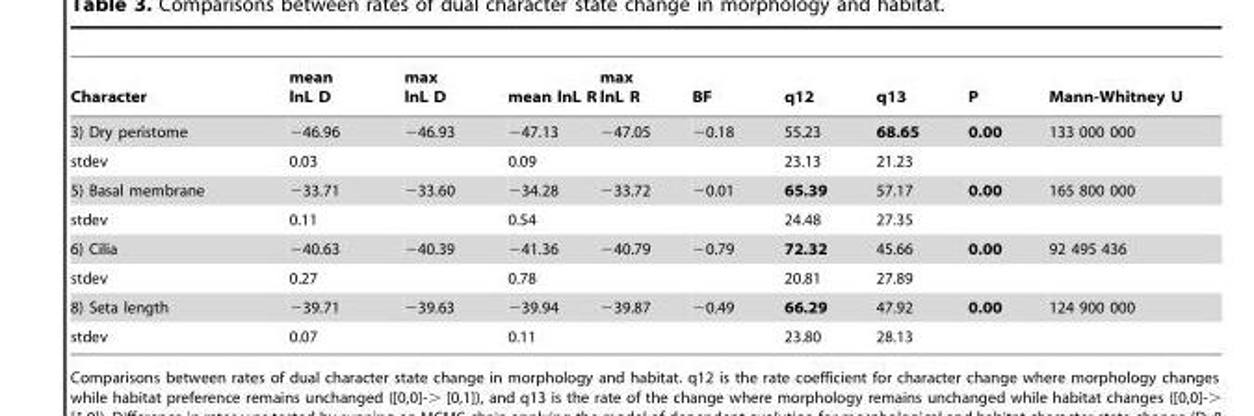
<table><thead><tr><td>Character</td><td>mean lnL D</td><td>max lnL D</td><td>mean lnL R</td><td>max lnL R</td><td>BF</td><td>q12</td><td>q13</td><td>P</td><td>Mann-Whitney U</td></tr></thead><tbody><tr><td>3) Dry peristome</td><td>−46.96</td><td>−46.93</td><td>−47.13</td><td>−47.05</td><td>−0.18</td><td>55.23</td><td>68.65</td><td>0.00</td><td>133 000 000</td></tr><tr><td>stdev</td><td>0.03</td><td></td><td>0.09</td><td></td><td></td><td>23.13</td><td>21.23</td><td></td><td></td></tr><tr><td>5) Basal membrane</td><td>−33.71</td><td>−33.60</td><td>−34.28</td><td>−33.72</td><td>−0.01</td><td>65.39</td><td>57.17</td><td>0.00</td><td>165 800 000</td></tr><tr><td>stdev</td><td>0.11</td><td></td><td>0.54</td><td></td><td></td><td>24.48</td><td>27.35</td><td></td><td></td></tr><tr><td>6) Cilia</td><td>−40.63</td><td>−40.39</td><td>−41.36</td><td>−40.79</td><td>−0.79</td><td>72.32</td><td>45.66</td><td>0.00</td><td>92 495 436</td></tr><tr><td>stdev</td><td>0.27</td><td></td><td>0.78</td><td></td><td></td><td>20.81</td><td>27.89</td><td></td><td></td></tr><tr><td>8) Seta length</td><td>−39.71</td><td>−39.63</td><td>−39.94</td><td>−39.87</td><td>−0.49</td><td>66.29</td><td>47.92</td><td>0.00</td><td>124 900 000</td></tr><tr><td>stdev</td><td>0.07</td><td></td><td>0.11</td><td></td><td></td><td>23.80</td><td>28.13</td><td></td><td></td></tr></tbody></table>